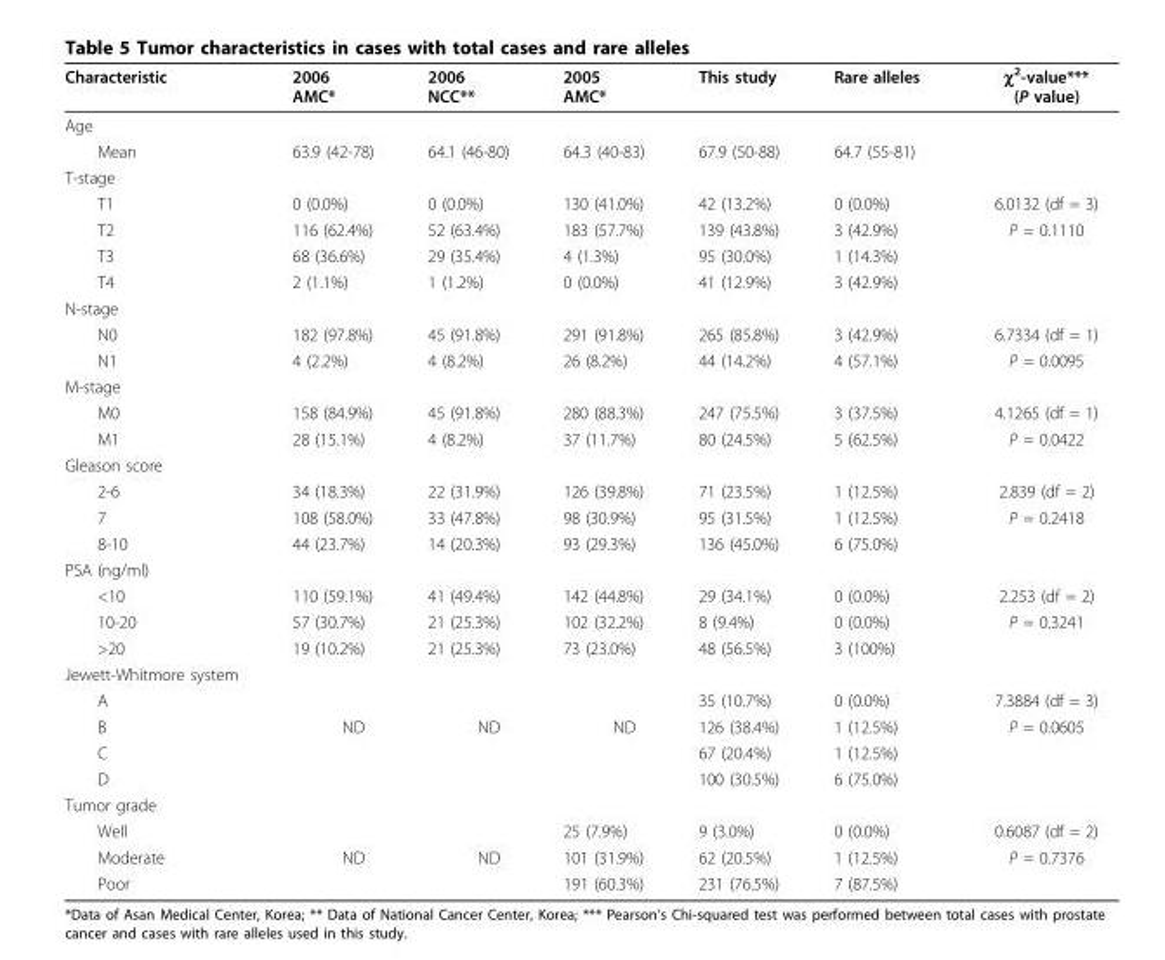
<table><thead><tr><td>Characteristic</td><td>2006 AMC*</td><td>2006 NCC**</td><td>2005 AMC*</td><td>This study</td><td>Rare alleles</td><td>χ<sup>2</sup>-value*** (P value)</td></tr></thead><tbody><tr><td colspan="7">Age</td></tr><tr><td>Mean</td><td>63.9 (42-78)</td><td>64.1 (46-80)</td><td>64.3 (40-83)</td><td>67.9 (50-88)</td><td>64.7 (55-81)</td><td></td></tr><tr><td colspan="7">T-stage</td></tr><tr><td>T1</td><td>0 (0.0%)</td><td>0 (0.0%)</td><td>130 (41.0%)</td><td>42 (13.2%)</td><td>0 (0.0%)</td><td>6.0132 (df = 3)</td></tr><tr><td>T2</td><td>116 (62.4%)</td><td>52 (63.4%)</td><td>183 (57.7%)</td><td>139 (43.8%)</td><td>3 (42.9%)</td><td>P = 0.1110</td></tr><tr><td>T3</td><td>68 (36.6%)</td><td>29 (35.4%)</td><td>4 (1.3%)</td><td>95 (30.0%)</td><td>1 (14.3%)</td><td></td></tr><tr><td>T4</td><td>2 (1.1%)</td><td>1 (1.2%)</td><td>0 (0.0%)</td><td>41 (12.9%)</td><td>3 (42.9%)</td><td></td></tr><tr><td colspan="7">N-stage</td></tr><tr><td>N0</td><td>182 (97.8%)</td><td>45 (91.8%)</td><td>291 (91.8%)</td><td>265 (85.8%)</td><td>3 (42.9%)</td><td>6.7334 (df = 1)</td></tr><tr><td>N1</td><td>4 (2.2%)</td><td>4 (8.2%)</td><td>26 (8.2%)</td><td>44 (14.2%)</td><td>4 (57.1%)</td><td>P = 0.0095</td></tr><tr><td colspan="7">M-stage</td></tr><tr><td>M0</td><td>158 (84.9%)</td><td>45 (91.8%)</td><td>280 (88.3%)</td><td>247 (75.5%)</td><td>3 (37.5%)</td><td>4.1265 (df = 1)</td></tr><tr><td>M1</td><td>28 (15.1%)</td><td>4 (8.2%)</td><td>37 (11.7%)</td><td>80 (24.5%)</td><td>5 (62.5%)</td><td>P = 0.0422</td></tr><tr><td colspan="7">Gleason score</td></tr><tr><td>2-6</td><td>34 (18.3%)</td><td>22 (31.9%)</td><td>126 (39.8%)</td><td>71 (23.5%)</td><td>1 (12.5%)</td><td>2.839 (df = 2)</td></tr><tr><td>7</td><td>108 (58.0%)</td><td>33 (47.8%)</td><td>98 (30.9%)</td><td>95 (31.5%)</td><td>1 (12.5%)</td><td>P = 0.2418</td></tr><tr><td>8-10</td><td>44 (23.7%)</td><td>14 (20.3%)</td><td>93 (29.3%)</td><td>136 (45.0%)</td><td>6 (75.0%)</td><td></td></tr><tr><td colspan="7">PSA (ng/ml)</td></tr><tr><td>&lt;10</td><td>110 (59.1%)</td><td>41 (49.4%)</td><td>142 (44.8%)</td><td>29 (34.1%)</td><td>0 (0.0%)</td><td>2.253 (df = 2)</td></tr><tr><td>10-20</td><td>57 (30.7%)</td><td>21 (25.3%)</td><td>102 (32.2%)</td><td>8 (9.4%)</td><td>0 (0.0%)</td><td>P = 0.3241</td></tr><tr><td>&gt;20</td><td>19 (10.2%)</td><td>21 (25.3%)</td><td>73 (23.0%)</td><td>48 (56.5%)</td><td>3 (100%)</td><td></td></tr><tr><td colspan="7">Jewett-Whitmore system</td></tr><tr><td>A</td><td></td><td></td><td></td><td>35 (10.7%)</td><td>0 (0.0%)</td><td>7.3884 (df = 3)</td></tr><tr><td>B</td><td>ND</td><td>ND</td><td>ND</td><td>126 (38.4%)</td><td>1 (12.5%)</td><td>P = 0.0605</td></tr><tr><td>C</td><td></td><td></td><td></td><td>67 (20.4%)</td><td>1 (12.5%)</td><td></td></tr><tr><td>D</td><td></td><td></td><td></td><td>100 (30.5%)</td><td>6 (75.0%)</td><td></td></tr><tr><td colspan="7">Tumor grade</td></tr><tr><td>Well</td><td></td><td></td><td>25 (7.9%)</td><td>9 (3.0%)</td><td>0 (0.0%)</td><td>0.6087 (df = 2)</td></tr><tr><td>Moderate</td><td>ND</td><td>ND</td><td>101 (31.9%)</td><td>62 (20.5%)</td><td>1 (12.5%)</td><td>P = 0.7376</td></tr><tr><td>Poor</td><td></td><td></td><td>191 (60.3%)</td><td>231 (76.5%)</td><td>7 (87.5%)</td><td></td></tr></tbody></table>